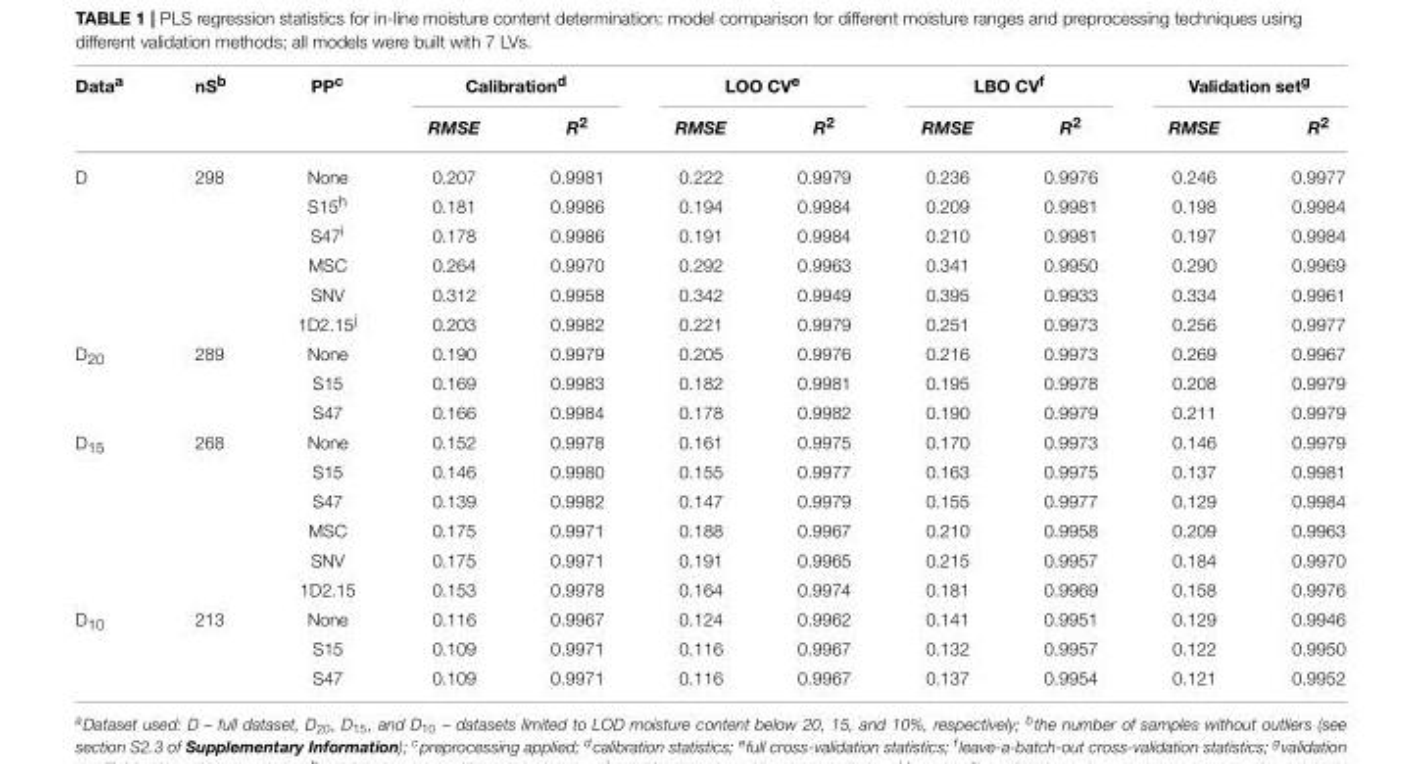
<table><thead><tr><td rowspan="2">Data<sup>a</sup></td><td rowspan="2">nS<sup>b</sup></td><td rowspan="2">PP<sup>c</sup></td><td colspan="2">Calibration<sup>d</sup></td><td colspan="2">LOO CV<sup>e</sup></td><td colspan="2">LBO CV<sup>f</sup></td><td colspan="2">Validation set<sup>g</sup></td></tr><tr><td>RMSE</td><td>R<sup>2</sup></td><td>RMSE</td><td>R<sup>2</sup></td><td>RMSE</td><td>R<sup>2</sup></td><td>RMSE</td><td>R<sup>2</sup></td></tr></thead><tbody><tr><td rowspan="6">D</td><td>298</td><td>None</td><td>0.207</td><td>0.9981</td><td>0.222</td><td>0.9979</td><td>0.236</td><td>0.9976</td><td>0.246</td><td>0.9977</td></tr><tr><td></td><td>S15<sup>h</sup></td><td>0.181</td><td>0.9986</td><td>0.194</td><td>0.9984</td><td>0.209</td><td>0.9981</td><td>0.198</td><td>0.9984</td></tr><tr><td></td><td>S47<sup>i</sup></td><td>0.178</td><td>0.9986</td><td>0.191</td><td>0.9984</td><td>0.210</td><td>0.9981</td><td>0.197</td><td>0.9984</td></tr><tr><td></td><td>MSC</td><td>0.264</td><td>0.9970</td><td>0.292</td><td>0.9963</td><td>0.341</td><td>0.9950</td><td>0.290</td><td>0.9969</td></tr><tr><td></td><td>SNV</td><td>0.312</td><td>0.9958</td><td>0.342</td><td>0.9949</td><td>0.395</td><td>0.9933</td><td>0.334</td><td>0.9961</td></tr><tr><td></td><td>1D2.15<sup>j</sup></td><td>0.203</td><td>0.9982</td><td>0.221</td><td>0.9979</td><td>0.251</td><td>0.9973</td><td>0.256</td><td>0.9977</td></tr><tr><td rowspan="3">D<sub>20</sub></td><td>289</td><td>None</td><td>0.190</td><td>0.9979</td><td>0.205</td><td>0.9976</td><td>0.216</td><td>0.9973</td><td>0.269</td><td>0.9967</td></tr><tr><td></td><td>S15</td><td>0.169</td><td>0.9983</td><td>0.182</td><td>0.9981</td><td>0.195</td><td>0.9978</td><td>0.208</td><td>0.9979</td></tr><tr><td></td><td>S47</td><td>0.166</td><td>0.9984</td><td>0.178</td><td>0.9982</td><td>0.190</td><td>0.9979</td><td>0.211</td><td>0.9979</td></tr><tr><td rowspan="6">D<sub>15</sub></td><td>268</td><td>None</td><td>0.152</td><td>0.9978</td><td>0.161</td><td>0.9975</td><td>0.170</td><td>0.9973</td><td>0.146</td><td>0.9979</td></tr><tr><td></td><td>S15</td><td>0.146</td><td>0.9980</td><td>0.155</td><td>0.9977</td><td>0.163</td><td>0.9975</td><td>0.137</td><td>0.9981</td></tr><tr><td></td><td>S47</td><td>0.139</td><td>0.9982</td><td>0.147</td><td>0.9979</td><td>0.155</td><td>0.9977</td><td>0.129</td><td>0.9984</td></tr><tr><td></td><td>MSC</td><td>0.175</td><td>0.9971</td><td>0.188</td><td>0.9967</td><td>0.210</td><td>0.9958</td><td>0.209</td><td>0.9963</td></tr><tr><td></td><td>SNV</td><td>0.175</td><td>0.9971</td><td>0.191</td><td>0.9965</td><td>0.215</td><td>0.9957</td><td>0.184</td><td>0.9970</td></tr><tr><td></td><td>1D2.15</td><td>0.153</td><td>0.9978</td><td>0.164</td><td>0.9974</td><td>0.181</td><td>0.9969</td><td>0.158</td><td>0.9976</td></tr><tr><td rowspan="3">D<sub>10</sub></td><td>213</td><td>None</td><td>0.116</td><td>0.9967</td><td>0.124</td><td>0.9962</td><td>0.141</td><td>0.9951</td><td>0.129</td><td>0.9946</td></tr><tr><td></td><td>S15</td><td>0.109</td><td>0.9971</td><td>0.116</td><td>0.9967</td><td>0.132</td><td>0.9957</td><td>0.122</td><td>0.9950</td></tr><tr><td></td><td>S47</td><td>0.109</td><td>0.9971</td><td>0.116</td><td>0.9967</td><td>0.137</td><td>0.9954</td><td>0.121</td><td>0.9952</td></tr></tbody></table>